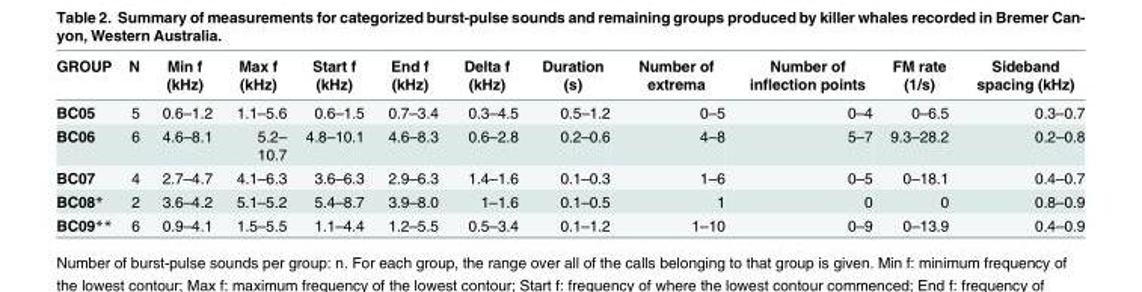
<table><thead><tr><td>GROUP</td><td>N</td><td>Min f (kHz)</td><td>Max f (kHz)</td><td>Start f (kHz)</td><td>End f (kHz)</td><td>Delta f (kHz)</td><td>Duration (s)</td><td>Number of extrema</td><td>Number of inflection points</td><td>FM rate (1/s)</td><td>Sideband spacing (kHz)</td></tr></thead><tbody><tr><td>BC05</td><td>5</td><td>0.6–1.2</td><td>1.1–5.6</td><td>0.6–1.5</td><td>0.7–3.4</td><td>0.3–4.5</td><td>0.5–1.2</td><td>0–5</td><td>0–4</td><td>0–6.5</td><td>0.3–0.7</td></tr><tr><td>BC06</td><td>6</td><td>4.6–8.1</td><td>5.2– 10.7</td><td>4.8–10.1</td><td>4.6–8.3</td><td>0.6–2.8</td><td>0.2–0.6</td><td>4–8</td><td>5–7</td><td>9.3–28.2</td><td>0.2–0.8</td></tr><tr><td>BC07</td><td>4</td><td>2.7–4.7</td><td>4.1–6.3</td><td>3.6–6.3</td><td>2.9–6.3</td><td>1.4–1.6</td><td>0.1–0.3</td><td>1–6</td><td>0–5</td><td>0–18.1</td><td>0.4–0.7</td></tr><tr><td>BC08*</td><td>2</td><td>3.6–4.2</td><td>5.1–5.2</td><td>5.4–8.7</td><td>3.9–8.0</td><td>1–1.6</td><td>0.1–0.5</td><td>1</td><td>0</td><td>0</td><td>0.8–0.9</td></tr><tr><td>BC09**</td><td>6</td><td>0.9–4.1</td><td>1.5–5.5</td><td>1.1–4.4</td><td>1.2–5.5</td><td>0.5–3.4</td><td>0.1–1.2</td><td>1–10</td><td>0–9</td><td>0–13.9</td><td>0.4–0.9</td></tr></tbody></table>